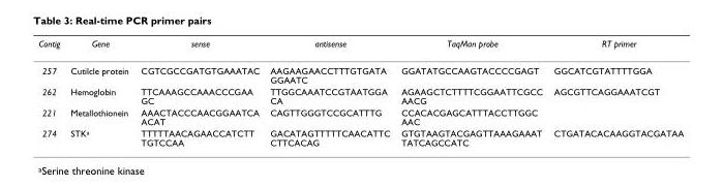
<table><thead><tr><td>Contig</td><td>Gene</td><td>sense</td><td>antisense</td><td>TaqMan probe</td><td>RT primer</td></tr></thead><tbody><tr><td>257</td><td>Cutilcle protein</td><td>CGTCGCCGATGTGAAATAC</td><td>AAGAAGAACCTTTGTGATA GGAATC</td><td>GGATATGCCAAGTACCCCGAGT</td><td>GGCATCGTATTTTGGA</td></tr><tr><td>262</td><td>Hemoglobin</td><td>TTCAAAGCCAAACCCGAA GC</td><td>TTGGCAAATCCGTAATGGA CA</td><td>AGAAGCTCTTTTCGGAATTCGCC AACG</td><td>AGCGTTCAGGAAATCGT</td></tr><tr><td>221</td><td>Metallothionein</td><td>AAACTACCCAACGGAATCA ACAT</td><td>CAGTTGGGTCCGCATTTG</td><td>CCACACGAGCATTTACCTTGGC AAC</td><td></td></tr><tr><td>274</td><td>STK<sup>a</sup></td><td>TTTTTAACAGAACCATCTT TGTCCAA</td><td>GACATAGTTTTTCAACATTC CTTCACAG</td><td>GTGTAAGTACGAGTTAAAGAAAT TATCAGCCATC</td><td>CTGATACACAAGGTACGATAA</td></tr></tbody></table>